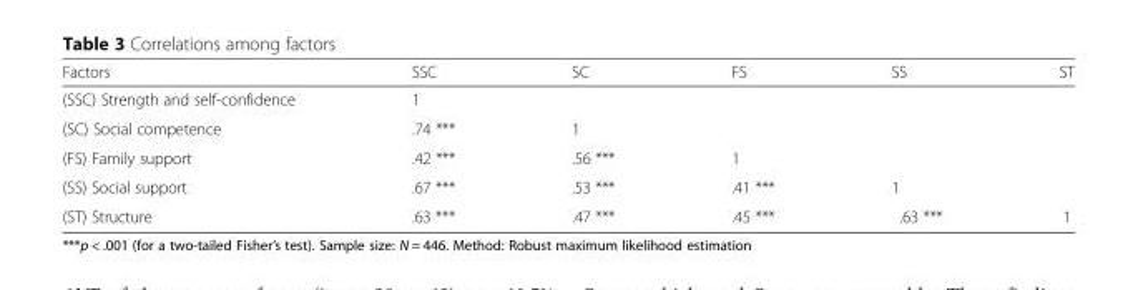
<table><thead><tr><td>Factors</td><td>SSC</td><td>SC</td><td>FS</td><td>SS</td><td>ST</td></tr></thead><tbody><tr><td>(SSC) Strength and self-confidence</td><td>1</td><td></td><td></td><td></td><td></td></tr><tr><td>(SC) Social competence</td><td>.74 ***</td><td>1</td><td></td><td></td><td></td></tr><tr><td>(FS) Family support</td><td>.42 ***</td><td>.56 ***</td><td>1</td><td></td><td></td></tr><tr><td>(SS) Social support</td><td>.67 ***</td><td>.53 ***</td><td>.41 ***</td><td>1</td><td></td></tr><tr><td>(ST) Structure</td><td>.63 ***</td><td>.47 ***</td><td>.45 ***</td><td>.63 ***</td><td>1</td></tr></tbody></table>